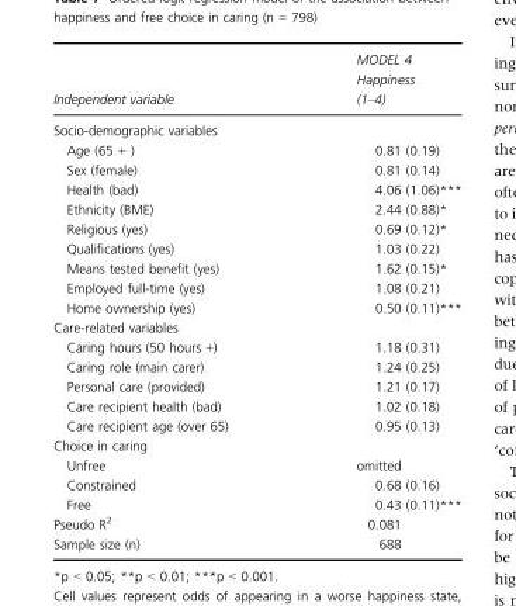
<table><thead><tr><td>Independent variable</td><td>MODEL 4 Happiness (1–4)</td></tr></thead><tbody><tr><td colspan="2">Socio-demographic variables</td></tr><tr><td>Age (65 + )</td><td>0.81 (0.19)</td></tr><tr><td>Sex (female)</td><td>0.81 (0.14)</td></tr><tr><td>Health (bad)</td><td>4.06 (1.06)***</td></tr><tr><td>Ethnicity (BME)</td><td>2.44 (0.88)*</td></tr><tr><td>Religious (yes)</td><td>0.69 (0.12)*</td></tr><tr><td>Qualifications (yes)</td><td>1.03 (0.22)</td></tr><tr><td>Means tested benefit (yes)</td><td>1.62 (0.15)*</td></tr><tr><td>Employed full-time (yes)</td><td>1.08 (0.21)</td></tr><tr><td>Home ownership (yes)</td><td>0.50 (0.11)***</td></tr><tr><td colspan="2">Care-related variables</td></tr><tr><td>Caring hours (50 hours +)</td><td>1.18 (0.31)</td></tr><tr><td>Caring role (main carer)</td><td>1.24 (0.25)</td></tr><tr><td>Personal care (provided)</td><td>1.21 (0.17)</td></tr><tr><td>Care recipient health (bad)</td><td>1.02 (0.18)</td></tr><tr><td>Care recipient age (over 65)</td><td>0.95 (0.13)</td></tr><tr><td colspan="2">Choice in caring</td></tr><tr><td>Unfree</td><td>omitted</td></tr><tr><td>Constrained</td><td>0.68 (0.16)</td></tr><tr><td>Free</td><td>0.43 (0.11)***</td></tr><tr><td>Pseudo R<sup>2</sup></td><td>0.081</td></tr><tr><td>Sample size (n)</td><td>688</td></tr></tbody></table>